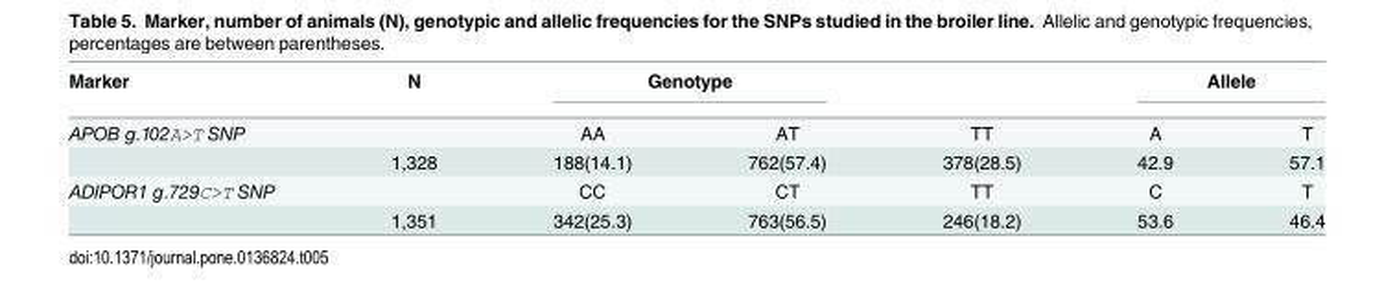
<table><thead><tr><td rowspan="2">Marker APOB g.102A&gt;T SNP</td><td rowspan="2">N</td><td colspan="2">Genotype</td><td rowspan="2">TT</td><td colspan="2">Allele</td></tr><tr><td>AA</td><td>AT</td><td>A</td><td>T</td></tr></thead><tbody><tr><td></td><td>1,328</td><td>188(14.1)</td><td>762(57.4)</td><td>378(28.5)</td><td>42.9</td><td>57.1</td></tr><tr><td rowspan="2">ADIPOR1 g.729C&gt;T SNP</td><td></td><td>CC</td><td>CT</td><td>TT</td><td>C</td><td>T</td></tr><tr><td>1,351</td><td>342(25.3)</td><td>763(56.5)</td><td>246(18.2)</td><td>53.6</td><td>46.4</td></tr></tbody></table>